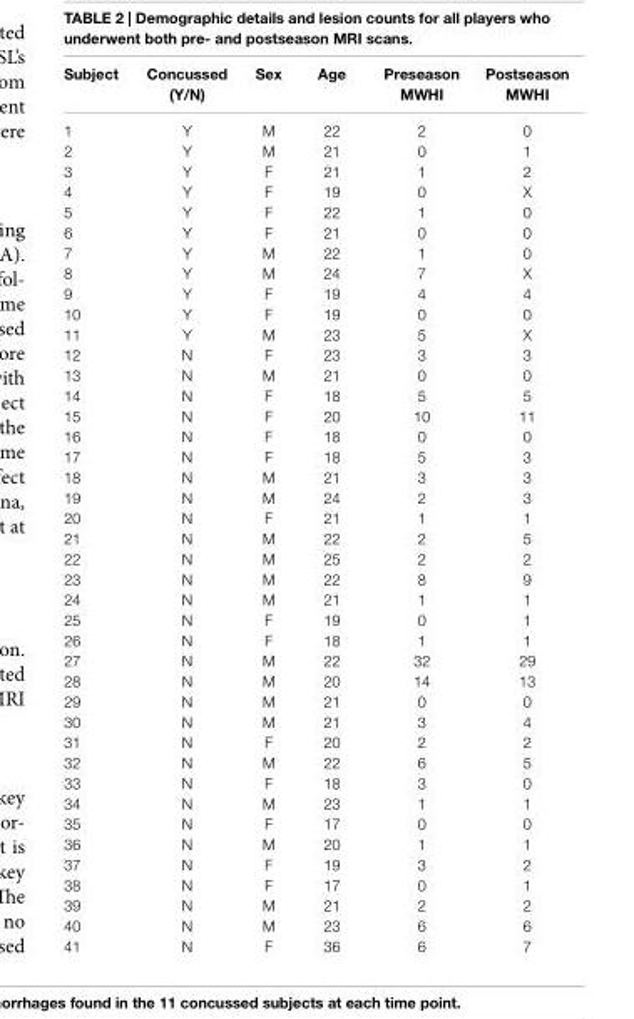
<table><thead><tr><td>subject</td><td>concussed (Y/n)</td><td>sex</td><td>age</td><td>Preseason MWhi</td><td>Postseason MWhi</td></tr></thead><tbody><tr><td>1</td><td>Y</td><td>M</td><td>22</td><td>2</td><td>0</td></tr><tr><td>2</td><td>Y</td><td>M</td><td>21</td><td>0</td><td>1</td></tr><tr><td>3</td><td>Y</td><td>F</td><td>21</td><td>1</td><td>2</td></tr><tr><td>4</td><td>Y</td><td>F</td><td>19</td><td>0</td><td>X</td></tr><tr><td>5</td><td>Y</td><td>F</td><td>22</td><td>1</td><td>0</td></tr><tr><td>6</td><td>Y</td><td>F</td><td>21</td><td>0</td><td>0</td></tr><tr><td>7</td><td>Y</td><td>M</td><td>22</td><td>1</td><td>0</td></tr><tr><td>8</td><td>Y</td><td>M</td><td>24</td><td>7</td><td>X</td></tr><tr><td>9</td><td>Y</td><td>F</td><td>19</td><td>4</td><td>4</td></tr><tr><td>10</td><td>Y</td><td>F</td><td>19</td><td>0</td><td>0</td></tr><tr><td>11</td><td>Y</td><td>M</td><td>23</td><td>5</td><td>X</td></tr><tr><td>12</td><td>N</td><td>F</td><td>23</td><td>3</td><td>3</td></tr><tr><td>13</td><td>N</td><td>M</td><td>21</td><td>0</td><td>0</td></tr><tr><td>14</td><td>N</td><td>F</td><td>18</td><td>5</td><td>5</td></tr><tr><td>15</td><td>N</td><td>F</td><td>20</td><td>10</td><td>11</td></tr><tr><td>16</td><td>N</td><td>F</td><td>18</td><td>0</td><td>0</td></tr><tr><td>17</td><td>N</td><td>F</td><td>18</td><td>5</td><td>3</td></tr><tr><td>18</td><td>N</td><td>M</td><td>21</td><td>3</td><td>3</td></tr><tr><td>19</td><td>N</td><td>M</td><td>24</td><td>2</td><td>3</td></tr><tr><td>20</td><td>N</td><td>F</td><td>21</td><td>1</td><td>1</td></tr><tr><td>21</td><td>N</td><td>M</td><td>22</td><td>2</td><td>5</td></tr><tr><td>22</td><td>N</td><td>M</td><td>25</td><td>2</td><td>2</td></tr><tr><td>23</td><td>N</td><td>M</td><td>22</td><td>8</td><td>9</td></tr><tr><td>24</td><td>N</td><td>M</td><td>21</td><td>1</td><td>1</td></tr><tr><td>25</td><td>N</td><td>F</td><td>19</td><td>0</td><td>1</td></tr><tr><td>26</td><td>N</td><td>F</td><td>18</td><td>1</td><td>1</td></tr><tr><td>27</td><td>N</td><td>M</td><td>22</td><td>32</td><td>29</td></tr><tr><td>28</td><td>N</td><td>M</td><td>20</td><td>14</td><td>13</td></tr><tr><td>29</td><td>N</td><td>M</td><td>21</td><td>0</td><td>0</td></tr><tr><td>30</td><td>N</td><td>M</td><td>21</td><td>3</td><td>4</td></tr><tr><td>31</td><td>N</td><td>F</td><td>20</td><td>2</td><td>2</td></tr><tr><td>32</td><td>N</td><td>M</td><td>22</td><td>6</td><td>5</td></tr><tr><td>33</td><td>N</td><td>F</td><td>18</td><td>3</td><td>0</td></tr><tr><td>34</td><td>N</td><td>M</td><td>23</td><td>1</td><td>1</td></tr><tr><td>35</td><td>N</td><td>F</td><td>17</td><td>0</td><td>0</td></tr><tr><td>36</td><td>N</td><td>M</td><td>20</td><td>1</td><td>1</td></tr><tr><td>37</td><td>N</td><td>F</td><td>19</td><td>3</td><td>2</td></tr><tr><td>38</td><td>N</td><td>F</td><td>17</td><td>0</td><td>1</td></tr><tr><td>39</td><td>N</td><td>M</td><td>21</td><td>2</td><td>2</td></tr><tr><td>40</td><td>N</td><td>M</td><td>23</td><td>6</td><td>6</td></tr><tr><td>41</td><td>N</td><td>F</td><td>36</td><td>6</td><td>7</td></tr></tbody></table>